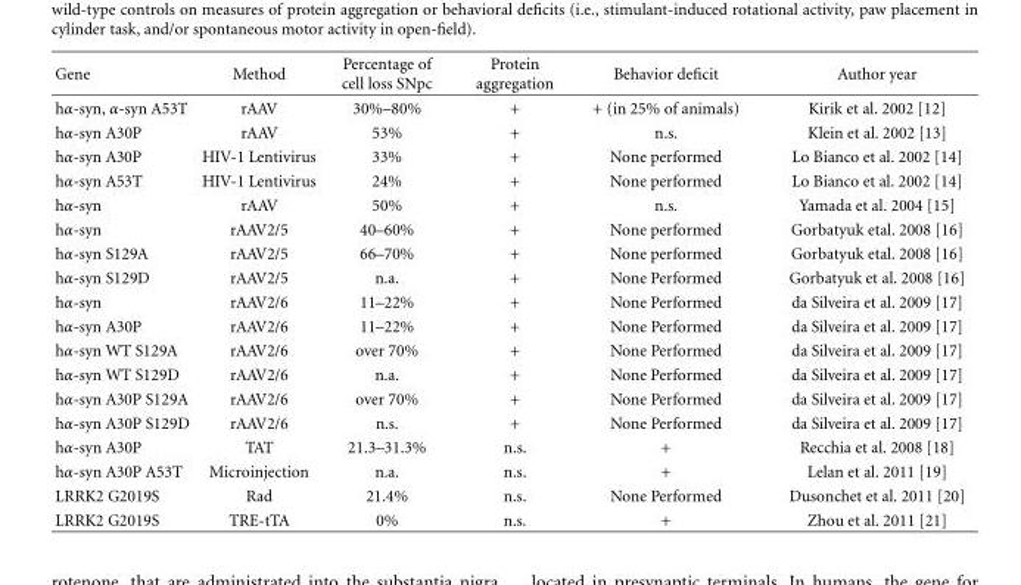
<table><thead><tr><td>Gene</td><td>Method</td><td>Percentage of cell loss SNpc</td><td>Protein aggregation</td><td>Behavior deficit</td><td>Author year</td></tr></thead><tbody><tr><td>hα-syn, α-syn A53T</td><td>rAAV</td><td>30%–80%</td><td>+</td><td>+ (in 25% of animals)</td><td>Kirik et al. 2002 [12]</td></tr><tr><td>hα-syn A30P</td><td>rAAV</td><td>53%</td><td>+</td><td>n.s.</td><td>Klein et al. 2002 [13]</td></tr><tr><td>hα-syn A30P</td><td>HIV-1 Lentivirus</td><td>33%</td><td>+</td><td>None performed</td><td>Lo Bianco et al. 2002 [14]</td></tr><tr><td>hα-syn A53T</td><td>HIV-1 Lentivirus</td><td>24%</td><td>+</td><td>None performed</td><td>Lo Bianco et al. 2002 [14]</td></tr><tr><td>hα-syn</td><td>rAAV</td><td>50%</td><td>+</td><td>n.s.</td><td>Yamada et al. 2004 [15]</td></tr><tr><td>hα-syn</td><td>rAAV2/5</td><td>40–60%</td><td>+</td><td>None performed</td><td>Gorbatyuk etal. 2008 [16]</td></tr><tr><td>hα-syn S129A</td><td>rAAV2/5</td><td>66–70%</td><td>+</td><td>None performed</td><td>Gorbatyuk etal. 2008 [16]</td></tr><tr><td>hα-syn S129D</td><td>rAAV2/5</td><td>n.a.</td><td>+</td><td>None Performed</td><td>Gorbatyuk et al. 2008 [16]</td></tr><tr><td>hα-syn</td><td>rAAV2/6</td><td>11–22%</td><td>+</td><td>None Performed</td><td>da Silveira et al. 2009 [17]</td></tr><tr><td>hα-syn A30P</td><td>rAAV2/6</td><td>11–22%</td><td>+</td><td>None Performed</td><td>da Silveira et al. 2009 [17]</td></tr><tr><td>hα-syn WT S129A</td><td>rAAV2/6</td><td>over 70%</td><td>+</td><td>None Performed</td><td>da Silveira et al. 2009 [17]</td></tr><tr><td>hα-syn WT S129D</td><td>rAAV2/6</td><td>n.a.</td><td>+</td><td>None Performed</td><td>da Silveira et al. 2009 [17]</td></tr><tr><td>hα-syn A30P S129A</td><td>rAAV2/6</td><td>over 70%</td><td>+</td><td>None Performed</td><td>da Silveira et al. 2009 [17]</td></tr><tr><td>hα-syn A30P S129D</td><td>rAAV2/6</td><td>n.s.</td><td>+</td><td>None Performed</td><td>da Silveira et al. 2009 [17]</td></tr><tr><td>hα-syn A30P</td><td>TAT</td><td>21.3–31.3%</td><td>n.s.</td><td>+</td><td>Recchia et al. 2008 [18]</td></tr><tr><td>hα-syn A30P A53T</td><td>Microinjection</td><td>n.a.</td><td>n.s.</td><td>+</td><td>Lelan et al. 2011 [19]</td></tr><tr><td>LRRK2 G2019S</td><td>Rad</td><td>21.4%</td><td>n.s.</td><td>None Performed</td><td>Dusonchet et al. 2011 [20]</td></tr><tr><td>LRRK2 G2019S</td><td>TRE-tTA</td><td>0%</td><td>n.s.</td><td>+</td><td>Zhou et al. 2011 [21]</td></tr></tbody></table>